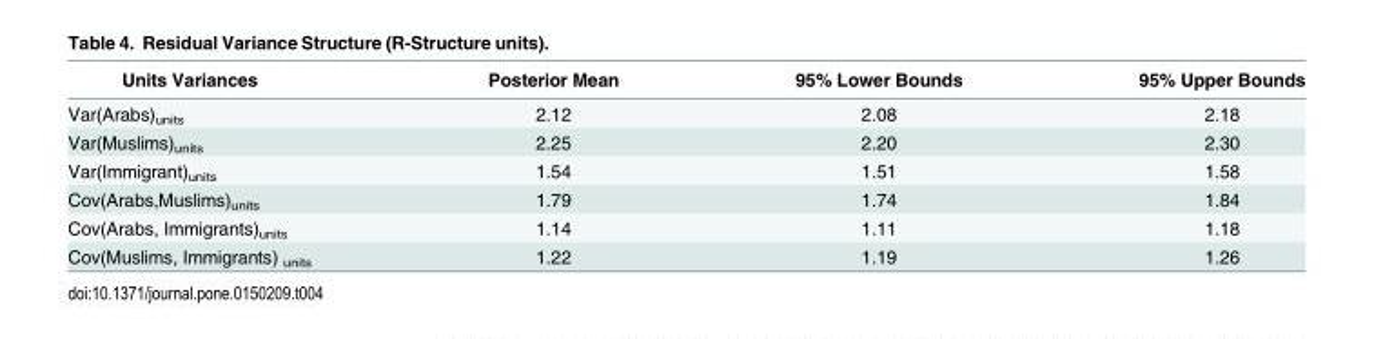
<table><thead><tr><td>Units Variances</td><td>Posterior Mean</td><td>95% Lower Bounds</td><td>95% Upper Bounds</td></tr></thead><tbody><tr><td>Var(Arabs)<sub>units</sub></td><td>2.12</td><td>2.08</td><td>2.18</td></tr><tr><td>Var(Muslims)<sub>units</sub></td><td>2.25</td><td>2.20</td><td>2.30</td></tr><tr><td>Var(Immigrant)<sub>units</sub></td><td>1.54</td><td>1.51</td><td>1.58</td></tr><tr><td>Cov(Arabs,Muslims)<sub>units</sub></td><td>1.79</td><td>1.74</td><td>1.84</td></tr><tr><td>Cov(Arabs, Immigrants)<sub>units</sub></td><td>1.14</td><td>1.11</td><td>1.18</td></tr><tr><td>Cov(Muslims, Immigrants) <sub>units</sub></td><td>1.22</td><td>1.19</td><td>1.26</td></tr></tbody></table>